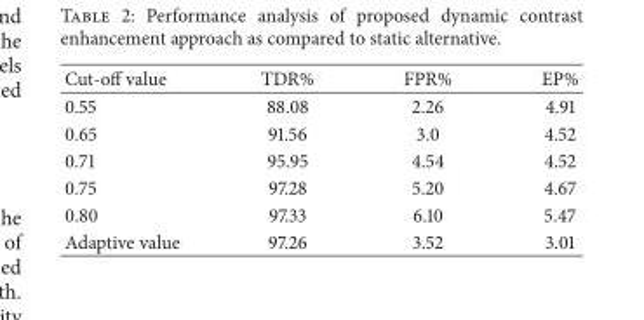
<table><thead><tr><td>Cut-off value</td><td>TDR%</td><td>FPR%</td><td>EP%</td></tr></thead><tbody><tr><td>0.55</td><td>88.08</td><td>2.26</td><td>4.91</td></tr><tr><td>0.65</td><td>91.56</td><td>3.0</td><td>4.52</td></tr><tr><td>0.71</td><td>95.95</td><td>4.54</td><td>4.52</td></tr><tr><td>0.75</td><td>97.28</td><td>5.20</td><td>4.67</td></tr><tr><td>0.80</td><td>97.33</td><td>6.10</td><td>5.47</td></tr><tr><td>Adaptive value</td><td>97.26</td><td>3.52</td><td>3.01</td></tr></tbody></table>